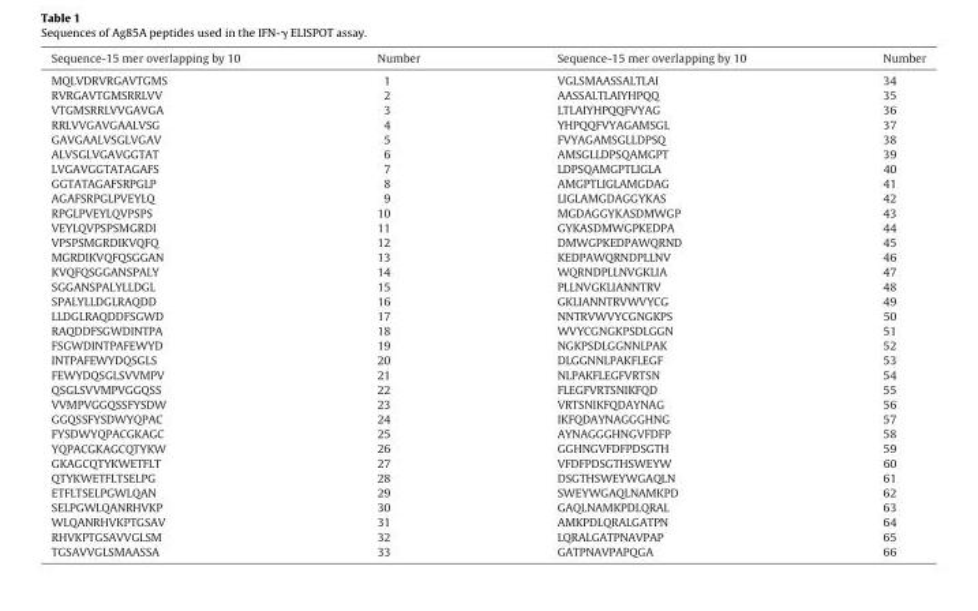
<table><thead><tr><td>Sequence-15 mer overlapping by 10</td><td>Number</td><td>Sequence-15 mer overlapping by 10</td><td>Number</td></tr></thead><tbody><tr><td>MQLVDRVRGAVTGMS</td><td>1</td><td>VGLSMAASSALTLAI</td><td>34</td></tr><tr><td>RVRGAVTGMSRRLVV</td><td>2</td><td>AASSALTLAIYHPQQ</td><td>35</td></tr><tr><td>VTGMSRRLVVGAVGA</td><td>3</td><td>LTLAIYHPQQFVYAG</td><td>36</td></tr><tr><td>RRLVVGAVGAALVSG</td><td>4</td><td>YHPQQFVYAGAMSGL</td><td>37</td></tr><tr><td>GAVGAALVSGLVGAV</td><td>5</td><td>FVYAGAMSGLLDPSQ</td><td>38</td></tr><tr><td>ALVSGLVGAVGGTAT</td><td>6</td><td>AMSGLLDPSQAMGPT</td><td>39</td></tr><tr><td>LVGAVGGTATAGAFS</td><td>7</td><td>LDPSQAMGPTLIGLA</td><td>40</td></tr><tr><td>GGTATAGAFSRPGLP</td><td>8</td><td>AMGPTLIGLAMGDAG</td><td>41</td></tr><tr><td>AGAFSRPGLPVEYLQ</td><td>9</td><td>LIGLAMGDAGGYKAS</td><td>42</td></tr><tr><td>RPGLPVEYLQVPSPS</td><td>10</td><td>MGDAGGYKASDMWGP</td><td>43</td></tr><tr><td>VEYLQVPSPSMGRDI</td><td>11</td><td>GYKASDMWGPKEDPA</td><td>44</td></tr><tr><td>VPSPSMGRDIKVQFQ</td><td>12</td><td>DMWGPKEDPAWQRND</td><td>45</td></tr><tr><td>MGRDIKVQFQSGGAN</td><td>13</td><td>KEDPAWQRNDPLLNV</td><td>46</td></tr><tr><td>KVQFQSGGANSPALY</td><td>14</td><td>WQRNDPLLNVGKLIA</td><td>47</td></tr><tr><td>SGGANSPALYLLDGL</td><td>15</td><td>PLLNVGKLIANNTRV</td><td>48</td></tr><tr><td>SPALYLLDGLRAQDD</td><td>16</td><td>GKLIANNTRVWVYCG</td><td>49</td></tr><tr><td>LLDGLRAQDDFSGWD</td><td>17</td><td>NNTRVWVYCGNGKPS</td><td>50</td></tr><tr><td>RAQDDFSGWDINTPA</td><td>18</td><td>WVYCGNGKPSDLGGN</td><td>51</td></tr><tr><td>FSGWDINTPAFEWYD</td><td>19</td><td>NGKPSDLGGNNLPAK</td><td>52</td></tr><tr><td>INTPAFEWYDQSGLS</td><td>20</td><td>DLGGNNLPAKFLEGF</td><td>53</td></tr><tr><td>FEWYDQSGLSVVMPV</td><td>21</td><td>NLPAKFLEGFVRTSN</td><td>54</td></tr><tr><td>QSGLSVVMPVGGQSS</td><td>22</td><td>FLEGFVRTSNIKFQD</td><td>55</td></tr><tr><td>VVMPVGGQSSFYSDW</td><td>23</td><td>VRTSNIKFQDAYNAG</td><td>56</td></tr><tr><td>GGQSSFYSDWYQPAC</td><td>24</td><td>IKFQDAYNAGGGHNG</td><td>57</td></tr><tr><td>FYSDWYQPACGKAGC</td><td>25</td><td>AYNAGGGHNGVFDFP</td><td>58</td></tr><tr><td>YQPACGKAGCQTYKW</td><td>26</td><td>GGHNGVFDFPDSGTH</td><td>59</td></tr><tr><td>GKAGCQTYKWETFLT</td><td>27</td><td>VFDFPDSGTHSWEYW</td><td>60</td></tr><tr><td>QTYKWETFLTSELPG</td><td>28</td><td>DSGTHSWEYWGAQLN</td><td>61</td></tr><tr><td>ETFLTSELPGWLQAN</td><td>29</td><td>SWEYWGAQLNAMKPD</td><td>62</td></tr><tr><td>SELPGWLQANRHVKP</td><td>30</td><td>GAQLNAMKPDLQRAL</td><td>63</td></tr><tr><td>WLQANRHVKPTGSAV</td><td>31</td><td>AMKPDLQRALGATPN</td><td>64</td></tr><tr><td>RHVKPTGSAVVGLSM</td><td>32</td><td>LQRALGATPNAVPAP</td><td>65</td></tr><tr><td>TGSAVVGLSMAASSA</td><td>33</td><td>GATPNAVPAPQGA</td><td>66</td></tr></tbody></table>